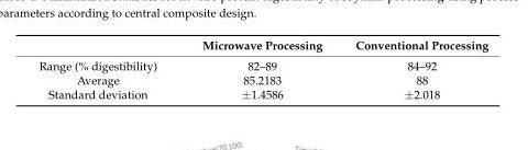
<table><thead><tr><td></td><td>Microwave Processing</td><td>Conventional Processing</td></tr></thead><tbody><tr><td>Range (% digestibility)</td><td>82–89</td><td>84–92</td></tr><tr><td>Average</td><td>85.2183</td><td>88</td></tr><tr><td>Standard deviation</td><td>±1.4586</td><td>±2.018</td></tr></tbody></table>